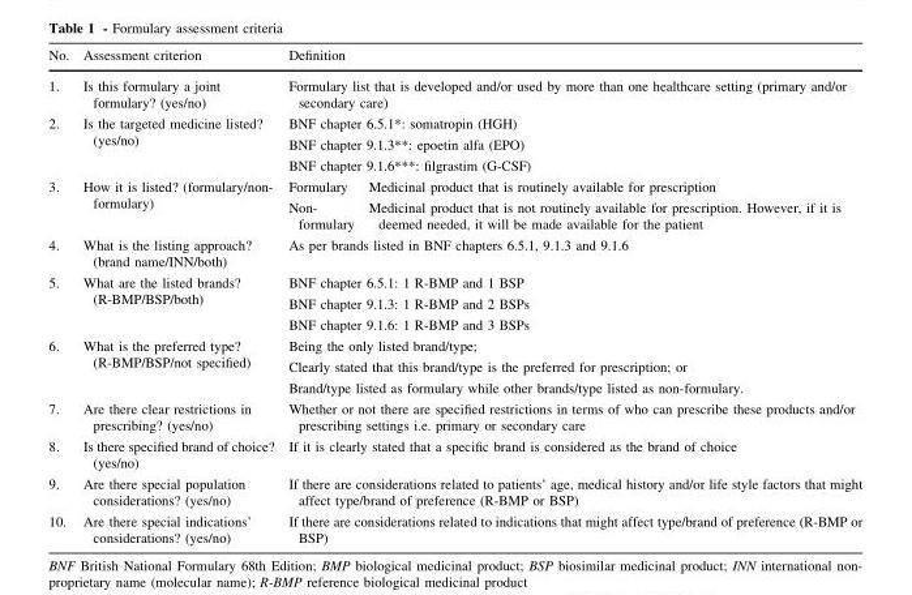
<table><thead><tr><td>No.</td><td>Assessment criterion</td><td colspan="2">Definition</td></tr></thead><tbody><tr><td>1.</td><td>Is this formulary a joint formulary? (yes/no)</td><td colspan="2">Formulary list that is developed and/or used by more than one healthcare setting (primary and/or secondary care)</td></tr><tr><td rowspan="3">2.</td><td rowspan="3">Is the targeted medicine listed? (yes/no)</td><td colspan="2">BNF chapter 6.5.1*: somatropin (HGH)</td></tr><tr><td colspan="2">BNF chapter 9.1.3**: epoetin alfa (EPO)</td></tr><tr><td colspan="2">BNF chapter 9.1.6***: filgrastim (G-CSF)</td></tr><tr><td rowspan="2">3.</td><td rowspan="2">How it is listed? (formulary/non- formulary)</td><td>Formulary</td><td>Medicinal product that is routinely available for prescription</td></tr><tr><td>Non- formulary</td><td>Medicinal product that is not routinely available for prescription. However, if it is deemed needed, it will be made available for the patient</td></tr><tr><td>4.</td><td>What is the listing approach? (brand name/INN/both)</td><td colspan="2">As per brands listed in BNF chapters 6.5.1, 9.1.3 and 9.1.6</td></tr><tr><td rowspan="3">5.</td><td rowspan="3">What are the listed brands? (R-BMP/BSP/both)</td><td colspan="2">BNF chapter 6.5.1: 1 R-BMP and 1 BSP</td></tr><tr><td colspan="2">BNF chapter 9.1.3: 1 R-BMP and 2 BSPs</td></tr><tr><td colspan="2">BNF chapter 9.1.6: 1 R-BMP and 3 BSPs</td></tr><tr><td>6.</td><td>What is the preferred type? (R-BMP/BSP/not specified)</td><td colspan="2">Being the only listed brand/type; Clearly stated that this brand/type is the preferred for prescription; or Brand/type listed as formulary while other brands/type listed as non-formulary.</td></tr><tr><td>7.</td><td>Are there clear restrictions in prescribing? (yes/no)</td><td colspan="2">Whether or not there are specified restrictions in terms of who can prescribe these products and/or prescribing settings i.e. primary or secondary care</td></tr><tr><td>8.</td><td>Is there specified brand of choice? (yes/no)</td><td colspan="2">If it is clearly stated that a specific brand is considered as the brand of choice</td></tr><tr><td>9.</td><td>Are there special population considerations? (yes/no)</td><td colspan="2">If there are considerations related to patients’ age, medical history and/or life style factors that might affect type/brand of preference (R-BMP or BSP)</td></tr><tr><td>10.</td><td>Are there special indications’ considerations? (yes/no)</td><td colspan="2">If there are considerations related to indications that might affect type/brand of preference (R-BMP or BSP)</td></tr></tbody></table>